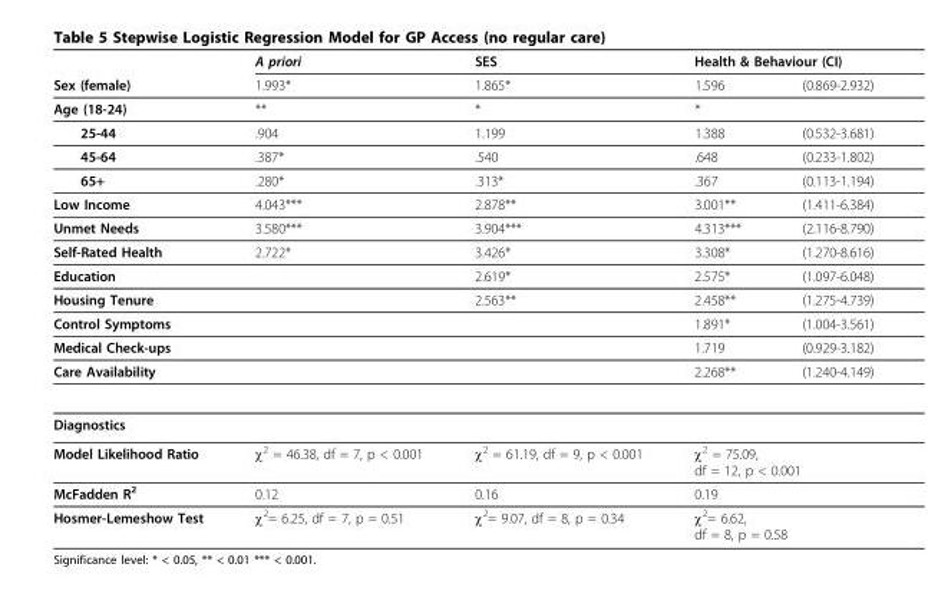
<table><thead><tr><td rowspan="2">Sex (female)</td><td rowspan="2">A priori 1.993*</td><td rowspan="2">SES 1.865*</td><td colspan="2">Health &amp; Behaviour (CI)</td></tr><tr><td>1.596</td><td>(0.869-2.932)</td></tr></thead><tbody><tr><td>Age (18-24)</td><td>**</td><td>*</td><td>*</td><td></td></tr><tr><td>25-44</td><td>.904</td><td>1.199</td><td>1.388</td><td>(0.532-3.681)</td></tr><tr><td>45-64</td><td>.387*</td><td>.540</td><td>.648</td><td>(0.233-1.802)</td></tr><tr><td>65+</td><td>.280*</td><td>.313*</td><td>.367</td><td>(0.113-1.194)</td></tr><tr><td>Low Income</td><td>4.043***</td><td>2.878**</td><td>3.001**</td><td>(1.411-6.384)</td></tr><tr><td>Unmet Needs</td><td>3.580***</td><td>3.904***</td><td>4.313***</td><td>(2.116-8.790)</td></tr><tr><td>Self-Rated Health</td><td>2.722*</td><td>3.426*</td><td>3.308*</td><td>(1.270-8.616)</td></tr><tr><td>Education</td><td></td><td>2.619*</td><td>2.575*</td><td>(1.097-6.048)</td></tr><tr><td>Housing Tenure</td><td></td><td>2.563**</td><td>2.458**</td><td>(1.275-4.739)</td></tr><tr><td>Control Symptoms</td><td></td><td></td><td>1.891*</td><td>(1.004-3.561)</td></tr><tr><td>Medical Check-ups</td><td></td><td></td><td>1.719</td><td>(0.929-3.182)</td></tr><tr><td>Care Availability</td><td></td><td></td><td>2.268**</td><td>(1.240-4.149)</td></tr><tr><td colspan="5">Diagnostics</td></tr><tr><td>Model Likelihood Ratio</td><td>χ2 = 46.38, df = 7, p &lt; 0.001</td><td>χ2 = 61.19, df = 9, p &lt; 0.001</td><td colspan="2">χ2 = 75.09, df = 12, p &lt; 0.001</td></tr><tr><td>McFadden R2</td><td>0.12</td><td>0.16</td><td colspan="2">0.19</td></tr><tr><td>Hosmer-Lemeshow Test</td><td>χ2= 6.25, df = 7, p = 0.51</td><td>χ2= 9.07, df = 8, p = 0.34</td><td colspan="2">χ2= 6.62, df = 8, p = 0.58</td></tr></tbody></table>